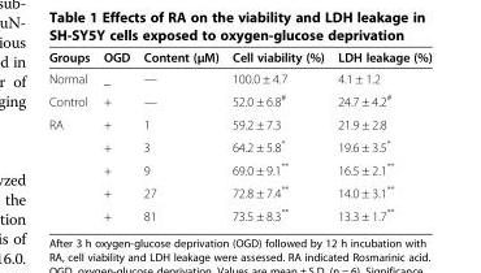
<table><thead><tr><td>Groups</td><td>OGD</td><td>Content (μM)</td><td>Cell viability (%)</td><td>LDH leakage (%)</td></tr></thead><tbody><tr><td>Normal</td><td>_</td><td>—</td><td>100.0 ± 4.7</td><td>4.1 ± 1.2</td></tr><tr><td>Control</td><td>+</td><td>—</td><td>52.0 ± 6.8<sup>#</sup></td><td>24.7 ± 4.2<sup>#</sup></td></tr><tr><td rowspan="5">RA</td><td>+</td><td>1</td><td>59.2 ± 7.3</td><td>21.9 ± 2.8</td></tr><tr><td>+</td><td>3</td><td>64.2 ± 5.8*</td><td>19.6 ± 3.5*</td></tr><tr><td>+</td><td>9</td><td>69.0 ± 9.1**</td><td>16.5 ± 2.1**</td></tr><tr><td>+</td><td>27</td><td>72.8 ± 7.4**</td><td>14.0 ± 3.1**</td></tr><tr><td>+</td><td>81</td><td>73.5 ± 8.3**</td><td>13.3 ± 1.7**</td></tr></tbody></table>